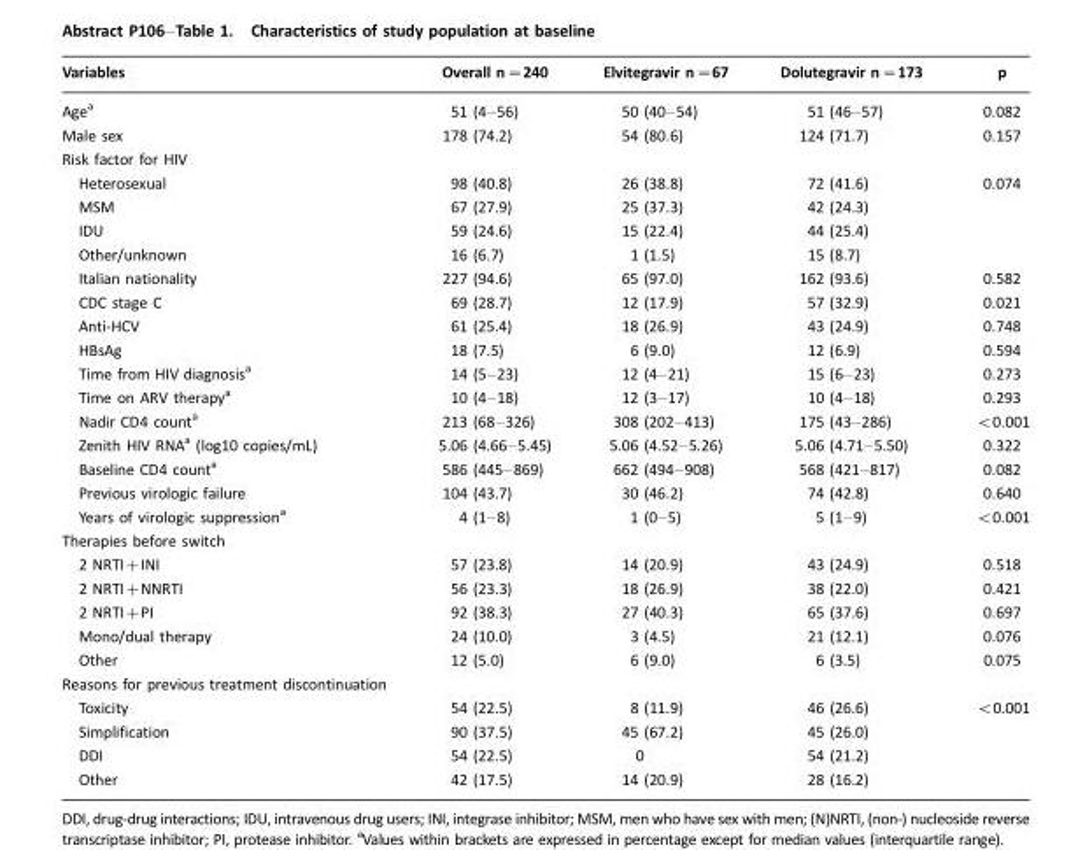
<table><thead><tr><td>Variables</td><td>Overall n=240</td><td>Elvitegravir n=67</td><td>Dolutegravir n=173</td><td>p</td></tr></thead><tbody><tr><td>Agea</td><td>51 (4–56)</td><td>50 (40–54)</td><td>51 (46–57)</td><td>0.082</td></tr><tr><td>Male sex</td><td>178 (74.2)</td><td>54 (80.6)</td><td>124 (71.7)</td><td>0.157</td></tr><tr><td colspan="5">Risk factor for HIV</td></tr><tr><td>Heterosexual</td><td>98 (40.8)</td><td>26 (38.8)</td><td>72 (41.6)</td><td>0.074</td></tr><tr><td>MSM</td><td>67 (27.9)</td><td>25 (37.3)</td><td>42 (24.3)</td><td></td></tr><tr><td>IDU</td><td>59 (24.6)</td><td>15 (22.4)</td><td>44 (25.4)</td><td></td></tr><tr><td>Other/unknown</td><td>16 (6.7)</td><td>1 (1.5)</td><td>15 (8.7)</td><td></td></tr><tr><td>Italian nationality</td><td>227 (94.6)</td><td>65 (97.0)</td><td>162 (93.6)</td><td>0.582</td></tr><tr><td>CDC stage C</td><td>69 (28.7)</td><td>12 (17.9)</td><td>57 (32.9)</td><td>0.021</td></tr><tr><td>Anti-HCV</td><td>61 (25.4)</td><td>18 (26.9)</td><td>43 (24.9)</td><td>0.748</td></tr><tr><td>HBsAg</td><td>18 (7.5)</td><td>6 (9.0)</td><td>12 (6.9)</td><td>0.594</td></tr><tr><td>Time from HIV diagnosisa</td><td>14 (5–23)</td><td>12 (4–21)</td><td>15 (6–23)</td><td>0.273</td></tr><tr><td>Time on ARV therapya</td><td>10 (4–18)</td><td>12 (3–17)</td><td>10 (4–18)</td><td>0.293</td></tr><tr><td>Nadir CD4 counta</td><td>213 (68–326)</td><td>308 (202–413)</td><td>175 (43–286)</td><td>&lt;0.001</td></tr><tr><td>Zenith HIV RNAa (log10 copies/mL)</td><td>5.06 (4.66–5.45)</td><td>5.06 (4.52–5.26)</td><td>5.06 (4.71–5.50)</td><td>0.322</td></tr><tr><td>Baseline CD4 counta</td><td>586 (445–869)</td><td>662 (494–908)</td><td>568 (421–817)</td><td>0.082</td></tr><tr><td>Previous virologic failure</td><td>104 (43.7)</td><td>30 (46.2)</td><td>74 (42.8)</td><td>0.640</td></tr><tr><td>Years of virologic suppressiona</td><td>4 (1–8)</td><td>1 (0–5)</td><td>5 (1–9)</td><td>&lt;0.001</td></tr><tr><td colspan="5">Therapies before switch</td></tr><tr><td>2 NRTI+INI</td><td>57 (23.8)</td><td>14 (20.9)</td><td>43 (24.9)</td><td>0.518</td></tr><tr><td>2 NRTI+NNRTI</td><td>56 (23.3)</td><td>18 (26.9)</td><td>38 (22.0)</td><td>0.421</td></tr><tr><td>2 NRTI+PI</td><td>92 (38.3)</td><td>27 (40.3)</td><td>65 (37.6)</td><td>0.697</td></tr><tr><td>Mono/dual therapy</td><td>24 (10.0)</td><td>3 (4.5)</td><td>21 (12.1)</td><td>0.076</td></tr><tr><td>Other</td><td>12 (5.0)</td><td>6 (9.0)</td><td>6 (3.5)</td><td>0.075</td></tr><tr><td colspan="5">Reasons for previous treatment discontinuation</td></tr><tr><td>Toxicity</td><td>54 (22.5)</td><td>8 (11.9)</td><td>46 (26.6)</td><td>&lt;0.001</td></tr><tr><td>Simplification</td><td>90 (37.5)</td><td>45 (67.2)</td><td>45 (26.0)</td><td></td></tr><tr><td>DDI</td><td>54 (22.5)</td><td>0</td><td>54 (21.2)</td><td></td></tr><tr><td>Other</td><td>42 (17.5)</td><td>14 (20.9)</td><td>28 (16.2)</td><td></td></tr></tbody></table>